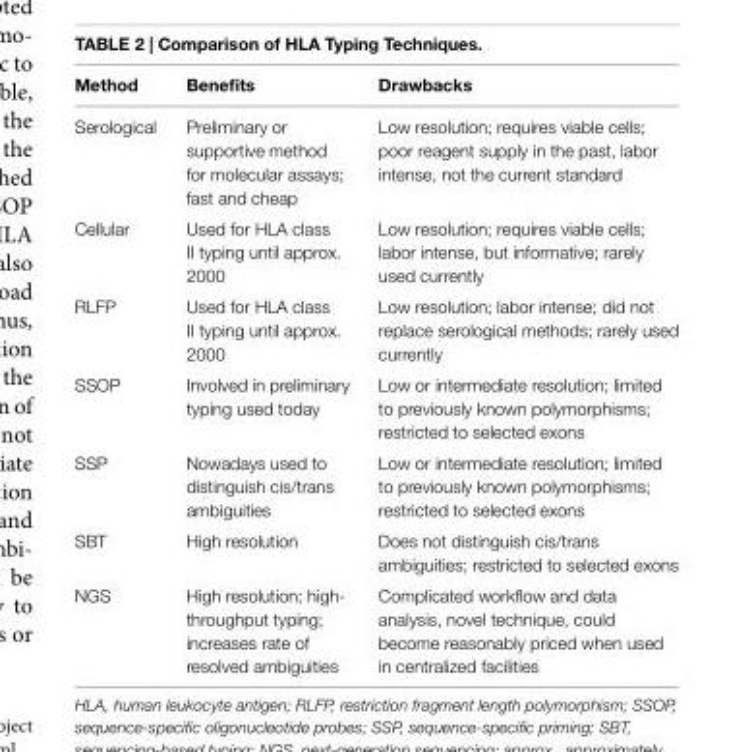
<table><thead><tr><td>Method</td><td>Benefits</td><td>Drawbacks</td></tr></thead><tbody><tr><td>Serological</td><td>Preliminary or supportive method for molecular assays; fast and cheap</td><td>Low resolution; requires viable cells; poor reagent supply in the past, labor intense, not the current standard</td></tr><tr><td>Cellular</td><td>Used for HLA class II typing until approx. 2000</td><td>Low resolution; requires viable cells; labor intense, but informative; rarely used currently</td></tr><tr><td>RLFP</td><td>Used for HLA class II typing until approx. 2000</td><td>Low resolution; labor intense; did not replace serological methods; rarely used currently</td></tr><tr><td>SSOP</td><td>Involved in preliminary typing used today</td><td>Low or intermediate resolution; limited to previously known polymorphisms; restricted to selected exons</td></tr><tr><td>SSP</td><td>Nowadays used to distinguish cis/trans ambiguities</td><td>Low or intermediate resolution; limited to previously known polymorphisms; restricted to selected exons</td></tr><tr><td>SBT</td><td>High resolution</td><td>Does not distinguish cis/trans ambiguities; restricted to selected exons</td></tr><tr><td>NGS</td><td>High resolution; high- throughput typing; increases rate of resolved ambiguities</td><td>Complicated workflow and data analysis, novel technique, could become reasonably priced when used in centralized facilities</td></tr></tbody></table>